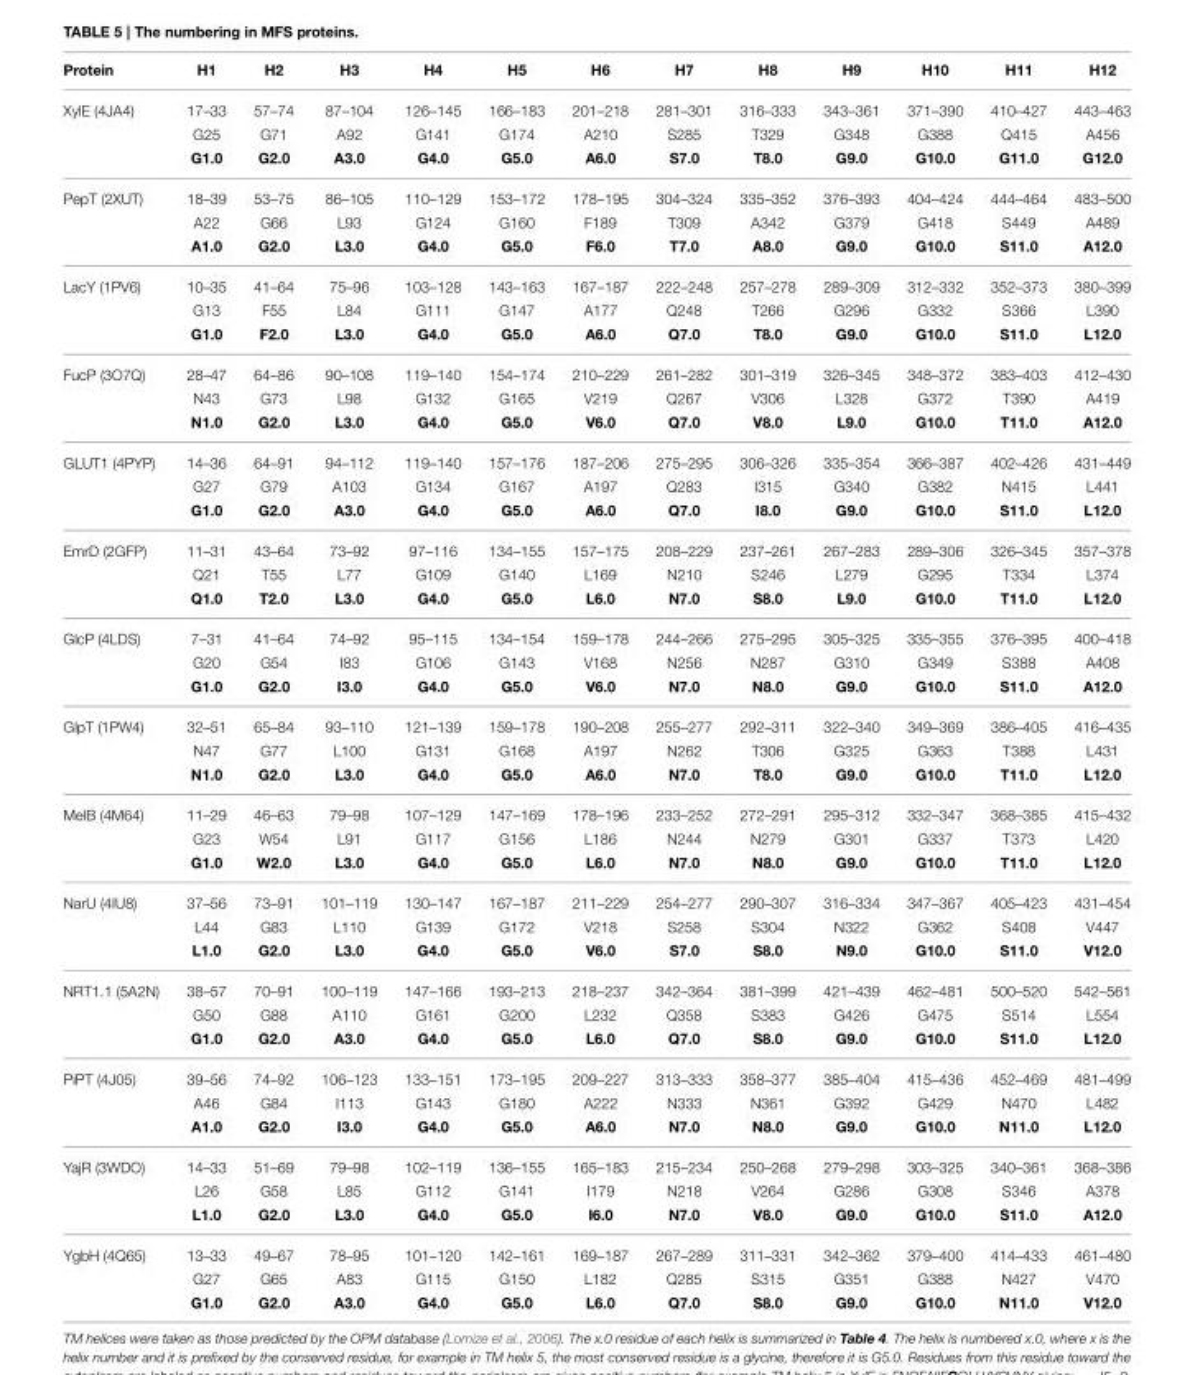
<table><thead><tr><td>Protein</td><td>H1</td><td>H2</td><td>H3</td><td>H4</td><td>H5</td><td>H6</td><td>H7</td><td>H8</td><td>H9</td><td>H10</td><td>H11</td><td>H12</td></tr></thead><tbody><tr><td rowspan="3">XylE (4JA4)</td><td>17–33</td><td>57–74</td><td>87–104</td><td>126–145</td><td>166–183</td><td>201–218</td><td>281–301</td><td>316–333</td><td>343–361</td><td>371–390</td><td>410–427</td><td>443–463</td></tr><tr><td>G25</td><td>G71</td><td>A92</td><td>G141</td><td>G174</td><td>A210</td><td>S285</td><td>T329</td><td>G348</td><td>G388</td><td>Q415</td><td>A456</td></tr><tr><td>G1.0</td><td>G2.0</td><td>A3.0</td><td>G4.0</td><td>G5.0</td><td>A6.0</td><td>S7.0</td><td>T8.0</td><td>G9.0</td><td>G10.0</td><td>G11.0</td><td>G12.0</td></tr><tr><td rowspan="3">PepT (2XUT)</td><td>18–39</td><td>53–75</td><td>86–105</td><td>110–129</td><td>153–172</td><td>178–195</td><td>304–324</td><td>335–352</td><td>376–393</td><td>404–424</td><td>444–464</td><td>483–500</td></tr><tr><td>A22</td><td>G66</td><td>L93</td><td>G124</td><td>G160</td><td>F189</td><td>T309</td><td>A342</td><td>G379</td><td>G418</td><td>S449</td><td>A489</td></tr><tr><td>A1.0</td><td>G2.0</td><td>L3.0</td><td>G4.0</td><td>G5.0</td><td>F6.0</td><td>T7.0</td><td>A8.0</td><td>G9.0</td><td>G10.0</td><td>S11.0</td><td>A12.0</td></tr><tr><td rowspan="3">LacY (1PV6)</td><td>10–35</td><td>41–64</td><td>75–96</td><td>103–128</td><td>143–163</td><td>167–187</td><td>222–248</td><td>257–278</td><td>289–309</td><td>312–332</td><td>352–373</td><td>380–399</td></tr><tr><td>G13</td><td>F55</td><td>L84</td><td>G111</td><td>G147</td><td>A177</td><td>Q248</td><td>T266</td><td>G296</td><td>G332</td><td>S366</td><td>L390</td></tr><tr><td>G1.0</td><td>F2.0</td><td>L3.0</td><td>G4.0</td><td>G5.0</td><td>A6.0</td><td>Q7.0</td><td>T8.0</td><td>G9.0</td><td>G10.0</td><td>S11.0</td><td>L12.0</td></tr><tr><td rowspan="3">FucP (3O7Q)</td><td>28–47</td><td>64–86</td><td>90–108</td><td>119–140</td><td>154–174</td><td>210–229</td><td>261–282</td><td>301–319</td><td>326–345</td><td>348–372</td><td>383–403</td><td>412–430</td></tr><tr><td>N43</td><td>G73</td><td>L98</td><td>G132</td><td>G165</td><td>V219</td><td>Q267</td><td>V306</td><td>L328</td><td>G372</td><td>T390</td><td>A419</td></tr><tr><td>N1.0</td><td>G2.0</td><td>L3.0</td><td>G4.0</td><td>G5.0</td><td>V6.0</td><td>Q7.0</td><td>V8.0</td><td>L9.0</td><td>G10.0</td><td>T11.0</td><td>A12.0</td></tr><tr><td rowspan="3">GLUT1 (4PYP)</td><td>14–36</td><td>64–91</td><td>94–112</td><td>119–140</td><td>157–176</td><td>187–206</td><td>275–295</td><td>306–326</td><td>335–354</td><td>366–387</td><td>402–426</td><td>431–449</td></tr><tr><td>G27</td><td>G79</td><td>A103</td><td>G134</td><td>G167</td><td>A197</td><td>Q283</td><td>I315</td><td>G340</td><td>G382</td><td>N415</td><td>L441</td></tr><tr><td>G1.0</td><td>G2.0</td><td>A3.0</td><td>G4.0</td><td>G5.0</td><td>A6.0</td><td>Q7.0</td><td>I8.0</td><td>G9.0</td><td>G10.0</td><td>S11.0</td><td>L12.0</td></tr><tr><td rowspan="3">EmrD (2GFP)</td><td>11–31</td><td>43–64</td><td>73–92</td><td>97–116</td><td>134–155</td><td>157–175</td><td>208–229</td><td>237–261</td><td>267–283</td><td>289–306</td><td>326–345</td><td>357–378</td></tr><tr><td>Q21</td><td>T55</td><td>L77</td><td>G109</td><td>G140</td><td>L169</td><td>N210</td><td>S246</td><td>L279</td><td>G295</td><td>T334</td><td>L374</td></tr><tr><td>Q1.0</td><td>T2.0</td><td>L3.0</td><td>G4.0</td><td>G5.0</td><td>L6.0</td><td>N7.0</td><td>S8.0</td><td>L9.0</td><td>G10.0</td><td>T11.0</td><td>L12.0</td></tr><tr><td rowspan="3">GlcP (4LDS)</td><td>7–31</td><td>41–64</td><td>74–92</td><td>95–115</td><td>134–154</td><td>159–178</td><td>244–266</td><td>275–295</td><td>305–325</td><td>335–355</td><td>376–395</td><td>400–418</td></tr><tr><td>G20</td><td>G54</td><td>I83</td><td>G106</td><td>G143</td><td>V168</td><td>N256</td><td>N287</td><td>G310</td><td>G349</td><td>S388</td><td>A408</td></tr><tr><td>G1.0</td><td>G2.0</td><td>I3.0</td><td>G4.0</td><td>G5.0</td><td>V6.0</td><td>N7.0</td><td>N8.0</td><td>G9.0</td><td>G10.0</td><td>S11.0</td><td>A12.0</td></tr><tr><td rowspan="3">GlpT (1PW4)</td><td>32–51</td><td>65–84</td><td>93–110</td><td>121–139</td><td>159–178</td><td>190–208</td><td>255–277</td><td>292–311</td><td>322–340</td><td>349–369</td><td>386–405</td><td>416–435</td></tr><tr><td>N47</td><td>G77</td><td>L100</td><td>G131</td><td>G168</td><td>A197</td><td>N262</td><td>T306</td><td>G325</td><td>G363</td><td>T388</td><td>L431</td></tr><tr><td>N1.0</td><td>G2.0</td><td>L3.0</td><td>G4.0</td><td>G5.0</td><td>A6.0</td><td>N7.0</td><td>T8.0</td><td>G9.0</td><td>G10.0</td><td>T11.0</td><td>L12.0</td></tr><tr><td rowspan="3">MelB (4M64)</td><td>11–29</td><td>46–63</td><td>79–98</td><td>107–129</td><td>147–169</td><td>178–196</td><td>233–252</td><td>272–291</td><td>295–312</td><td>332–347</td><td>368–385</td><td>415–432</td></tr><tr><td>G23</td><td>W54</td><td>L91</td><td>G117</td><td>G156</td><td>L186</td><td>N244</td><td>N279</td><td>G301</td><td>G337</td><td>T373</td><td>L420</td></tr><tr><td>G1.0</td><td>W2.0</td><td>L3.0</td><td>G4.0</td><td>G5.0</td><td>L6.0</td><td>N7.0</td><td>N8.0</td><td>G9.0</td><td>G10.0</td><td>T11.0</td><td>L12.0</td></tr><tr><td rowspan="3">NarU (4IU8)</td><td>37–56</td><td>73–91</td><td>101–119</td><td>130–147</td><td>167–187</td><td>211–229</td><td>254–277</td><td>290–307</td><td>316–334</td><td>347–367</td><td>405–423</td><td>431–454</td></tr><tr><td>L44</td><td>G83</td><td>L110</td><td>G139</td><td>G172</td><td>V218</td><td>S258</td><td>S304</td><td>N322</td><td>G362</td><td>S408</td><td>V447</td></tr><tr><td>L1.0</td><td>G2.0</td><td>L3.0</td><td>G4.0</td><td>G5.0</td><td>V6.0</td><td>S7.0</td><td>S8.0</td><td>N9.0</td><td>G10.0</td><td>S11.0</td><td>V12.0</td></tr><tr><td rowspan="3">NRT1.1 (5A2N)</td><td>38–57</td><td>70–91</td><td>100–119</td><td>147–166</td><td>193–213</td><td>218–237</td><td>342–364</td><td>381–399</td><td>421–439</td><td>462–481</td><td>500–520</td><td>542–561</td></tr><tr><td>G50</td><td>G88</td><td>A110</td><td>G161</td><td>G200</td><td>L232</td><td>Q358</td><td>S383</td><td>G426</td><td>G475</td><td>S514</td><td>L554</td></tr><tr><td>G1.0</td><td>G2.0</td><td>A3.0</td><td>G4.0</td><td>G5.0</td><td>L6.0</td><td>Q7.0</td><td>S8.0</td><td>G9.0</td><td>G10.0</td><td>S11.0</td><td>L12.0</td></tr><tr><td rowspan="3">PiPT (4J05)</td><td>39–56</td><td>74–92</td><td>106–123</td><td>133–151</td><td>173–195</td><td>209–227</td><td>313–333</td><td>358–377</td><td>385–404</td><td>415–436</td><td>452–469</td><td>481–499</td></tr><tr><td>A46</td><td>G84</td><td>I113</td><td>G143</td><td>G180</td><td>A222</td><td>N333</td><td>N361</td><td>G392</td><td>G429</td><td>N470</td><td>L482</td></tr><tr><td>A1.0</td><td>G2.0</td><td>I3.0</td><td>G4.0</td><td>G5.0</td><td>A6.0</td><td>N7.0</td><td>N8.0</td><td>G9.0</td><td>G10.0</td><td>N11.0</td><td>L12.0</td></tr><tr><td rowspan="3">YajR (3WDO)</td><td>14–33</td><td>51–69</td><td>79–98</td><td>102–119</td><td>136–155</td><td>165–183</td><td>215–234</td><td>250–268</td><td>279–298</td><td>303–325</td><td>340–361</td><td>368–386</td></tr><tr><td>L26</td><td>G58</td><td>L85</td><td>G112</td><td>G141</td><td>I179</td><td>N218</td><td>V264</td><td>G286</td><td>G308</td><td>S346</td><td>A378</td></tr><tr><td>L1.0</td><td>G2.0</td><td>L3.0</td><td>G4.0</td><td>G5.0</td><td>I6.0</td><td>N7.0</td><td>V8.0</td><td>G9.0</td><td>G10.0</td><td>S11.0</td><td>A12.0</td></tr><tr><td rowspan="3">YgbH (4Q65)</td><td>13–33</td><td>49–67</td><td>78–95</td><td>101–120</td><td>142–161</td><td>169–187</td><td>267–289</td><td>311–331</td><td>342–362</td><td>379–400</td><td>414–433</td><td>461–480</td></tr><tr><td>G27</td><td>G65</td><td>A83</td><td>G115</td><td>G150</td><td>L182</td><td>Q285</td><td>S315</td><td>G351</td><td>G388</td><td>N427</td><td>V470</td></tr><tr><td>G1.0</td><td>G2.0</td><td>A3.0</td><td>G4.0</td><td>G5.0</td><td>L6.0</td><td>Q7.0</td><td>S8.0</td><td>G9.0</td><td>G10.0</td><td>N11.0</td><td>V12.0</td></tr></tbody></table>